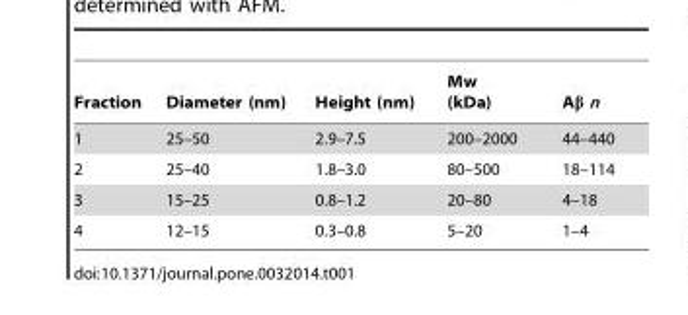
<table><thead><tr><td>Fraction</td><td>Diameter (nm)</td><td>Height (nm)</td><td>Mw (kDa)</td><td>Aβ n</td></tr></thead><tbody><tr><td>1</td><td>25–50</td><td>2.9–7.5</td><td>200–2000</td><td>44–440</td></tr><tr><td>2</td><td>25–40</td><td>1.8–3.0</td><td>80–500</td><td>18–114</td></tr><tr><td>3</td><td>15–25</td><td>0.8–1.2</td><td>20–80</td><td>4–18</td></tr><tr><td>4</td><td>12–15</td><td>0.3–0.8</td><td>5–20</td><td>1–4</td></tr></tbody></table>